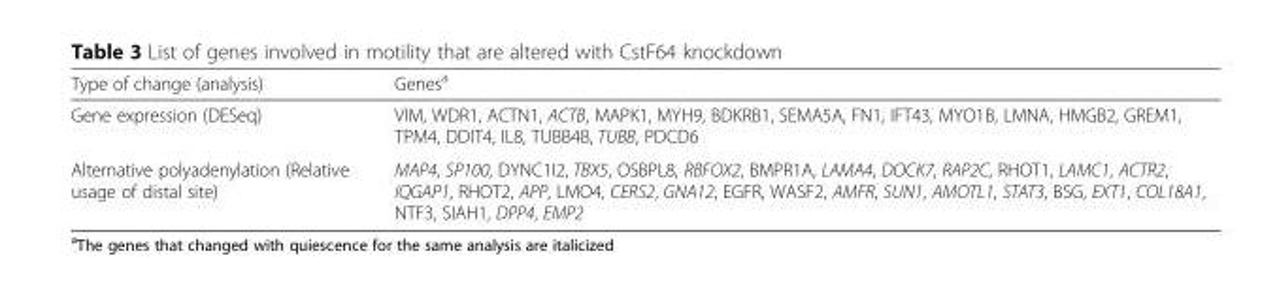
<table><thead><tr><td>Type of change (analysis)</td><td>Genes<sup>a</sup></td></tr></thead><tbody><tr><td>Gene expression (DESeq)</td><td>VIM, WDR1, ACTN1, ACTB, MAPK1, MYH9, BDKRB1, SEMA5A, FN1, IFT43, MYO1B, LMNA, HMGB2, GREM1, TPM4, DDIT4, IL8, TUBB4B, TUBB, PDCD6</td></tr><tr><td>Alternative polyadenylation (Relative usage of distal site)</td><td>MAP4, SP100, DYNC1I2, TBX5, OSBPL8, RBFOX2, BMPR1A, LAMA4, DOCK7, RAP2C, RHOT1, LAMC1, ACTR2, IQGAP1, RHOT2, APP, LMO4, CERS2, GNA12, EGFR, WASF2, AMFR, SUN1, AMOTL1, STAT3, BSG, EXT1, COL18A1, NTF3, SIAH1, DPP4, EMP2</td></tr></tbody></table>